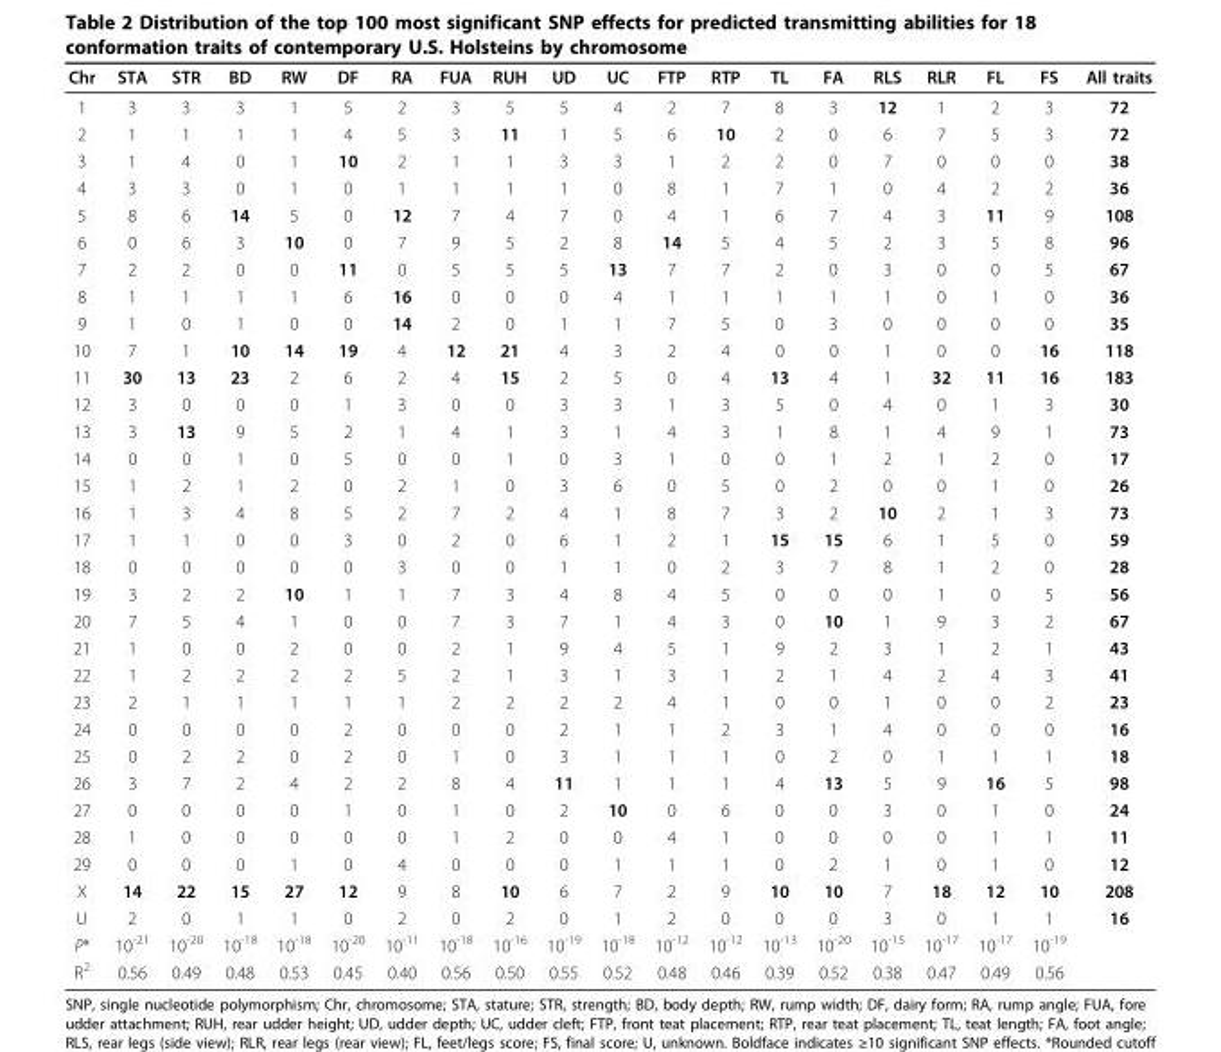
<table><thead><tr><td>Chr</td><td>STA</td><td>STR</td><td>BD</td><td>RW</td><td>DF</td><td>RA</td><td>FUA</td><td>RUH</td><td>UD</td><td>UC</td><td>FTP</td><td>RTP</td><td>TL</td><td>FA</td><td>RLS</td><td>RLR</td><td>FL</td><td>FS</td><td>All traits</td></tr></thead><tbody><tr><td>1</td><td>3</td><td>3</td><td>3</td><td>1</td><td>5</td><td>2</td><td>3</td><td>5</td><td>5</td><td>4</td><td>2</td><td>7</td><td>8</td><td>3</td><td>12</td><td>1</td><td>2</td><td>3</td><td>72</td></tr><tr><td>2</td><td>1</td><td>1</td><td>1</td><td>1</td><td>4</td><td>5</td><td>3</td><td>11</td><td>1</td><td>5</td><td>6</td><td>10</td><td>2</td><td>0</td><td>6</td><td>7</td><td>5</td><td>3</td><td>72</td></tr><tr><td>3</td><td>1</td><td>4</td><td>0</td><td>1</td><td>10</td><td>2</td><td>1</td><td>1</td><td>3</td><td>3</td><td>1</td><td>2</td><td>2</td><td>0</td><td>7</td><td>0</td><td>0</td><td>0</td><td>38</td></tr><tr><td>4</td><td>3</td><td>3</td><td>0</td><td>1</td><td>0</td><td>1</td><td>1</td><td>1</td><td>1</td><td>0</td><td>8</td><td>1</td><td>7</td><td>1</td><td>0</td><td>4</td><td>2</td><td>2</td><td>36</td></tr><tr><td>5</td><td>8</td><td>6</td><td>14</td><td>5</td><td>0</td><td>12</td><td>7</td><td>4</td><td>7</td><td>0</td><td>4</td><td>1</td><td>6</td><td>7</td><td>4</td><td>3</td><td>11</td><td>9</td><td>108</td></tr><tr><td>6</td><td>0</td><td>6</td><td>3</td><td>10</td><td>0</td><td>7</td><td>9</td><td>5</td><td>2</td><td>8</td><td>14</td><td>5</td><td>4</td><td>5</td><td>2</td><td>3</td><td>5</td><td>8</td><td>96</td></tr><tr><td>7</td><td>2</td><td>2</td><td>0</td><td>0</td><td>11</td><td>0</td><td>5</td><td>5</td><td>5</td><td>13</td><td>7</td><td>7</td><td>2</td><td>0</td><td>3</td><td>0</td><td>0</td><td>5</td><td>67</td></tr><tr><td>8</td><td>1</td><td>1</td><td>1</td><td>1</td><td>6</td><td>16</td><td>0</td><td>0</td><td>0</td><td>4</td><td>1</td><td>1</td><td>1</td><td>1</td><td>1</td><td>0</td><td>1</td><td>0</td><td>36</td></tr><tr><td>9</td><td>1</td><td>0</td><td>1</td><td>0</td><td>0</td><td>14</td><td>2</td><td>0</td><td>1</td><td>1</td><td>7</td><td>5</td><td>0</td><td>3</td><td>0</td><td>0</td><td>0</td><td>0</td><td>35</td></tr><tr><td>10</td><td>7</td><td>1</td><td>10</td><td>14</td><td>19</td><td>4</td><td>12</td><td>21</td><td>4</td><td>3</td><td>2</td><td>4</td><td>0</td><td>0</td><td>1</td><td>0</td><td>0</td><td>16</td><td>118</td></tr><tr><td>11</td><td>30</td><td>13</td><td>23</td><td>2</td><td>6</td><td>2</td><td>4</td><td>15</td><td>2</td><td>5</td><td>0</td><td>4</td><td>13</td><td>4</td><td>1</td><td>32</td><td>11</td><td>16</td><td>183</td></tr><tr><td>12</td><td>3</td><td>0</td><td>0</td><td>0</td><td>1</td><td>3</td><td>0</td><td>0</td><td>3</td><td>3</td><td>1</td><td>3</td><td>5</td><td>0</td><td>4</td><td>0</td><td>1</td><td>3</td><td>30</td></tr><tr><td>13</td><td>3</td><td>13</td><td>9</td><td>5</td><td>2</td><td>1</td><td>4</td><td>1</td><td>3</td><td>1</td><td>4</td><td>3</td><td>1</td><td>8</td><td>1</td><td>4</td><td>9</td><td>1</td><td>73</td></tr><tr><td>14</td><td>0</td><td>0</td><td>1</td><td>0</td><td>5</td><td>0</td><td>0</td><td>1</td><td>0</td><td>3</td><td>1</td><td>0</td><td>0</td><td>1</td><td>2</td><td>1</td><td>2</td><td>0</td><td>17</td></tr><tr><td>15</td><td>1</td><td>2</td><td>1</td><td>2</td><td>0</td><td>2</td><td>1</td><td>0</td><td>3</td><td>6</td><td>0</td><td>5</td><td>0</td><td>2</td><td>0</td><td>0</td><td>1</td><td>0</td><td>26</td></tr><tr><td>16</td><td>1</td><td>3</td><td>4</td><td>8</td><td>5</td><td>2</td><td>7</td><td>2</td><td>4</td><td>1</td><td>8</td><td>7</td><td>3</td><td>2</td><td>10</td><td>2</td><td>1</td><td>3</td><td>73</td></tr><tr><td>17</td><td>1</td><td>1</td><td>0</td><td>0</td><td>3</td><td>0</td><td>2</td><td>0</td><td>6</td><td>1</td><td>2</td><td>1</td><td>15</td><td>15</td><td>6</td><td>1</td><td>5</td><td>0</td><td>59</td></tr><tr><td>18</td><td>0</td><td>0</td><td>0</td><td>0</td><td>0</td><td>3</td><td>0</td><td>0</td><td>1</td><td>1</td><td>0</td><td>2</td><td>3</td><td>7</td><td>8</td><td>1</td><td>2</td><td>0</td><td>28</td></tr><tr><td>19</td><td>3</td><td>2</td><td>2</td><td>10</td><td>1</td><td>1</td><td>7</td><td>3</td><td>4</td><td>8</td><td>4</td><td>5</td><td>0</td><td>0</td><td>0</td><td>1</td><td>0</td><td>5</td><td>56</td></tr><tr><td>20</td><td>7</td><td>5</td><td>4</td><td>1</td><td>0</td><td>0</td><td>7</td><td>3</td><td>7</td><td>1</td><td>4</td><td>3</td><td>0</td><td>10</td><td>1</td><td>9</td><td>3</td><td>2</td><td>67</td></tr><tr><td>21</td><td>1</td><td>0</td><td>0</td><td>2</td><td>0</td><td>0</td><td>2</td><td>1</td><td>9</td><td>4</td><td>5</td><td>1</td><td>9</td><td>2</td><td>3</td><td>1</td><td>2</td><td>1</td><td>43</td></tr><tr><td>22</td><td>1</td><td>2</td><td>2</td><td>2</td><td>2</td><td>5</td><td>2</td><td>1</td><td>3</td><td>1</td><td>3</td><td>1</td><td>2</td><td>1</td><td>4</td><td>2</td><td>4</td><td>3</td><td>41</td></tr><tr><td>23</td><td>2</td><td>1</td><td>1</td><td>1</td><td>1</td><td>1</td><td>2</td><td>2</td><td>2</td><td>2</td><td>4</td><td>1</td><td>0</td><td>0</td><td>1</td><td>0</td><td>0</td><td>2</td><td>23</td></tr><tr><td>24</td><td>0</td><td>0</td><td>0</td><td>0</td><td>2</td><td>0</td><td>0</td><td>0</td><td>2</td><td>1</td><td>1</td><td>2</td><td>3</td><td>1</td><td>4</td><td>0</td><td>0</td><td>0</td><td>16</td></tr><tr><td>25</td><td>0</td><td>2</td><td>2</td><td>0</td><td>2</td><td>0</td><td>1</td><td>0</td><td>3</td><td>1</td><td>1</td><td>1</td><td>0</td><td>2</td><td>0</td><td>1</td><td>1</td><td>1</td><td>18</td></tr><tr><td>26</td><td>3</td><td>7</td><td>2</td><td>4</td><td>2</td><td>2</td><td>8</td><td>4</td><td>11</td><td>1</td><td>1</td><td>1</td><td>4</td><td>13</td><td>5</td><td>9</td><td>16</td><td>5</td><td>98</td></tr><tr><td>27</td><td>0</td><td>0</td><td>0</td><td>0</td><td>1</td><td>0</td><td>1</td><td>0</td><td>2</td><td>10</td><td>0</td><td>6</td><td>0</td><td>0</td><td>3</td><td>0</td><td>1</td><td>0</td><td>24</td></tr><tr><td>28</td><td>1</td><td>0</td><td>0</td><td>0</td><td>0</td><td>0</td><td>1</td><td>2</td><td>0</td><td>0</td><td>4</td><td>1</td><td>0</td><td>0</td><td>0</td><td>0</td><td>1</td><td>1</td><td>11</td></tr><tr><td>29</td><td>0</td><td>0</td><td>0</td><td>1</td><td>0</td><td>4</td><td>0</td><td>0</td><td>0</td><td>1</td><td>1</td><td>1</td><td>0</td><td>2</td><td>1</td><td>0</td><td>1</td><td>0</td><td>12</td></tr><tr><td>X</td><td>14</td><td>22</td><td>15</td><td>27</td><td>12</td><td>9</td><td>8</td><td>10</td><td>6</td><td>7</td><td>2</td><td>9</td><td>10</td><td>10</td><td>7</td><td>18</td><td>12</td><td>10</td><td>208</td></tr><tr><td>U</td><td>2</td><td>0</td><td>1</td><td>1</td><td>0</td><td>2</td><td>0</td><td>2</td><td>0</td><td>1</td><td>2</td><td>0</td><td>0</td><td>0</td><td>3</td><td>0</td><td>1</td><td>1</td><td>16</td></tr><tr><td>P*</td><td>10<sup>-21</sup></td><td>10<sup>-20</sup></td><td>10<sup>-18</sup></td><td>10<sup>-18</sup></td><td>10<sup>-20</sup></td><td>10<sup>-11</sup></td><td>10<sup>-18</sup></td><td>10<sup>-16</sup></td><td>10<sup>-19</sup></td><td>10<sup>-18</sup></td><td>10<sup>-12</sup></td><td>10<sup>-12</sup></td><td>10<sup>-13</sup></td><td>10<sup>-20</sup></td><td>10<sup>-15</sup></td><td>10<sup>-17</sup></td><td>10<sup>-17</sup></td><td>10<sup>-19</sup></td><td></td></tr><tr><td>R<sup>2</sup></td><td>0.56</td><td>0.49</td><td>0.48</td><td>0.53</td><td>0.45</td><td>0.40</td><td>0.56</td><td>0.50</td><td>0.55</td><td>0.52</td><td>0.48</td><td>0.46</td><td>0.39</td><td>0.52</td><td>0.38</td><td>0.47</td><td>0.49</td><td>0.56</td><td></td></tr></tbody></table>